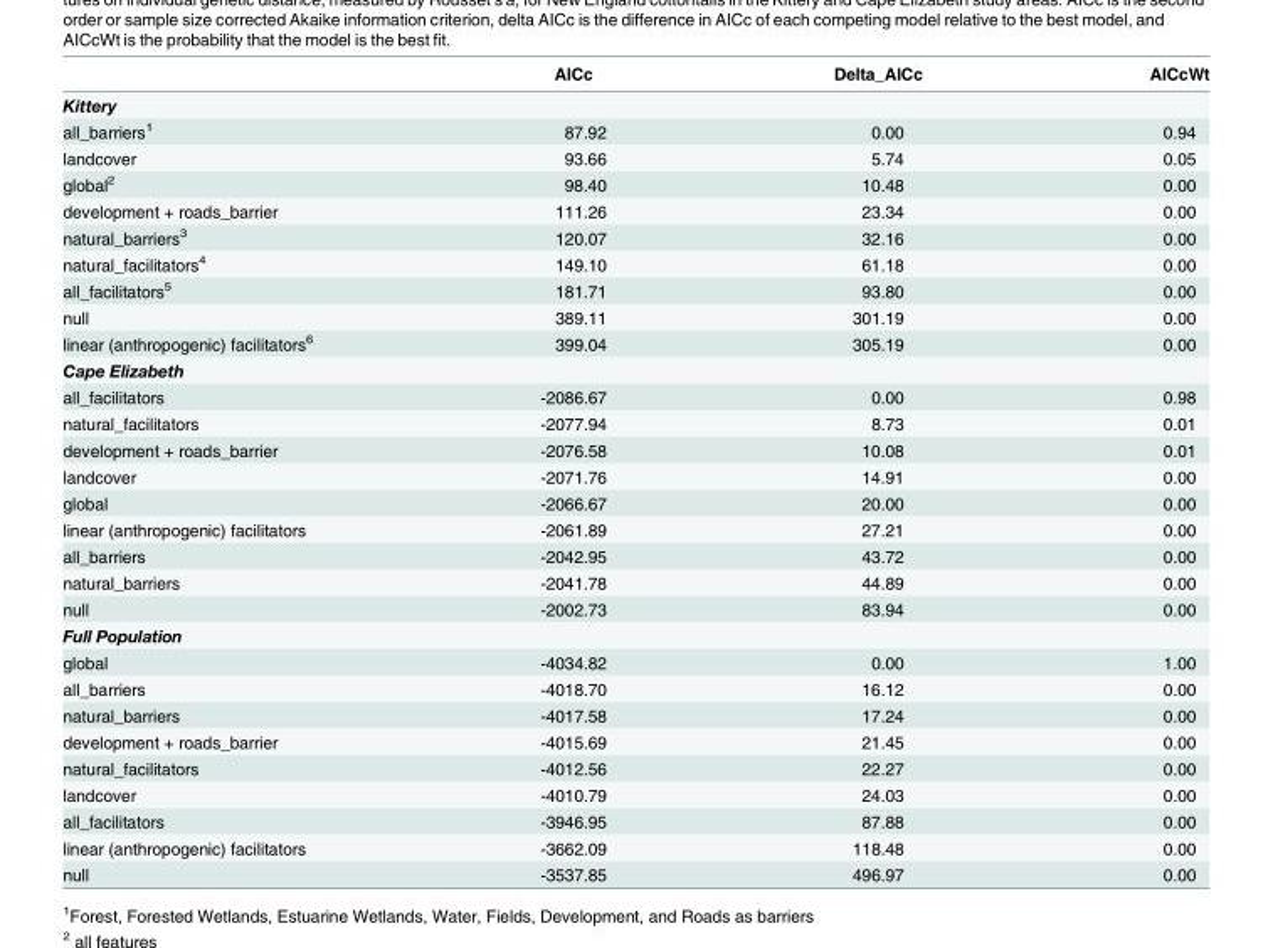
<table><thead><tr><td></td><td>AICc</td><td>Delta_AICc</td><td>AICcWt</td></tr></thead><tbody><tr><td colspan="4">Kittery</td></tr><tr><td>all_barriers<sup>1</sup></td><td>87.92</td><td>0.00</td><td>0.94</td></tr><tr><td>landcover</td><td>93.66</td><td>5.74</td><td>0.05</td></tr><tr><td>global<sup>2</sup></td><td>98.40</td><td>10.48</td><td>0.00</td></tr><tr><td>development + roads_barrier</td><td>111.26</td><td>23.34</td><td>0.00</td></tr><tr><td>natural_barriers<sup>3</sup></td><td>120.07</td><td>32.16</td><td>0.00</td></tr><tr><td>natural_facilitators<sup>4</sup></td><td>149.10</td><td>61.18</td><td>0.00</td></tr><tr><td>all_facilitators<sup>5</sup></td><td>181.71</td><td>93.80</td><td>0.00</td></tr><tr><td>null</td><td>389.11</td><td>301.19</td><td>0.00</td></tr><tr><td>linear (anthropogenic) facilitators<sup>6</sup></td><td>399.04</td><td>305.19</td><td>0.00</td></tr><tr><td colspan="4">Cape Elizabeth</td></tr><tr><td>all_facilitators</td><td>-2086.67</td><td>0.00</td><td>0.98</td></tr><tr><td>natural_facilitators</td><td>-2077.94</td><td>8.73</td><td>0.01</td></tr><tr><td>development + roads_barrier</td><td>-2076.58</td><td>10.08</td><td>0.01</td></tr><tr><td>landcover</td><td>-2071.76</td><td>14.91</td><td>0.00</td></tr><tr><td>global</td><td>-2066.67</td><td>20.00</td><td>0.00</td></tr><tr><td>linear (anthropogenic) facilitators</td><td>-2061.89</td><td>27.21</td><td>0.00</td></tr><tr><td>all_barriers</td><td>-2042.95</td><td>43.72</td><td>0.00</td></tr><tr><td>natural_barriers</td><td>-2041.78</td><td>44.89</td><td>0.00</td></tr><tr><td>null</td><td>-2002.73</td><td>83.94</td><td>0.00</td></tr><tr><td colspan="4">Full Population</td></tr><tr><td>global</td><td>-4034.82</td><td>0.00</td><td>1.00</td></tr><tr><td>all_barriers</td><td>-4018.70</td><td>16.12</td><td>0.00</td></tr><tr><td>natural_barriers</td><td>-4017.58</td><td>17.24</td><td>0.00</td></tr><tr><td>development + roads_barrier</td><td>-4015.69</td><td>21.45</td><td>0.00</td></tr><tr><td>natural_facilitators</td><td>-4012.56</td><td>22.27</td><td>0.00</td></tr><tr><td>landcover</td><td>-4010.79</td><td>24.03</td><td>0.00</td></tr><tr><td>all_facilitators</td><td>-3946.95</td><td>87.88</td><td>0.00</td></tr><tr><td>linear (anthropogenic) facilitators</td><td>-3662.09</td><td>118.48</td><td>0.00</td></tr><tr><td>null</td><td>-3537.85</td><td>496.97</td><td>0.00</td></tr></tbody></table>